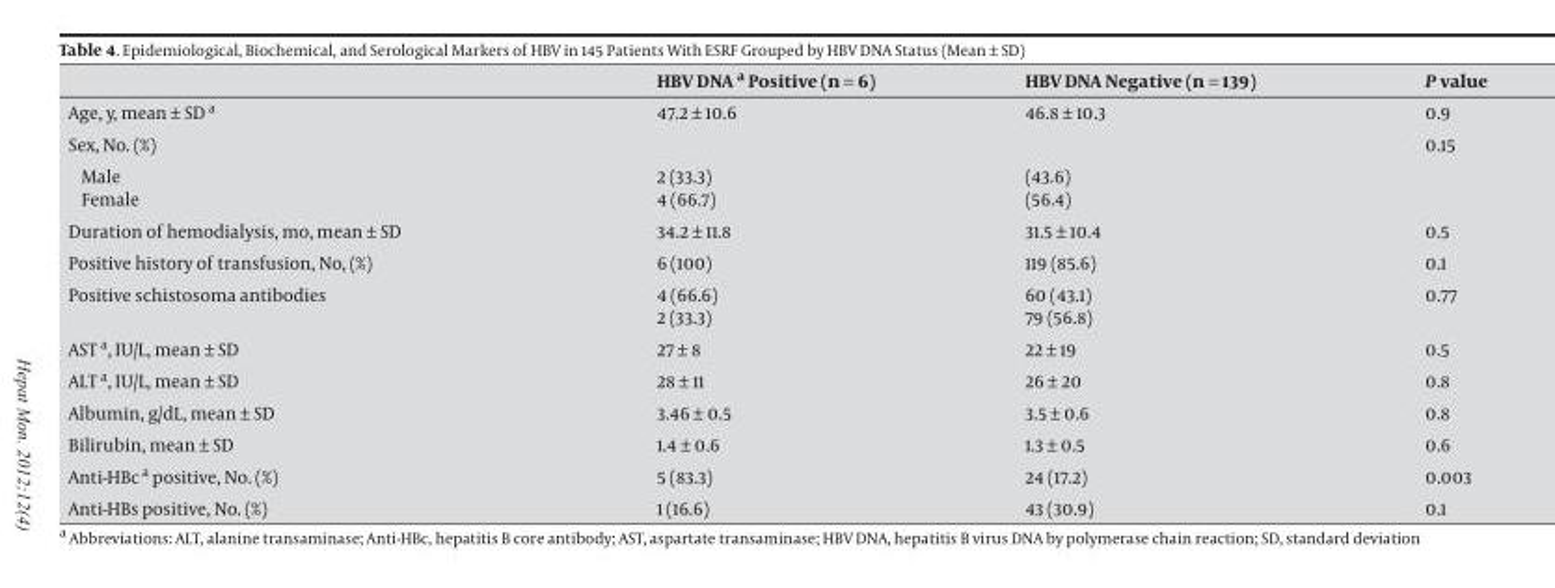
<table><thead><tr><td></td><td>HBV DNA a Positive (n = 6)</td><td>HBV DNA Negative (n = 139)</td><td>P value</td></tr></thead><tbody><tr><td>Age, y, mean ± SD a</td><td>47.2 ± 10.6</td><td>46.8 ± 10.3</td><td>0.9</td></tr><tr><td>Sex, No. (%)</td><td></td><td></td><td>0.15</td></tr><tr><td>Male</td><td>2 (33.3)</td><td>(43.6)</td><td></td></tr><tr><td>Female</td><td>4 (66.7)</td><td>(56.4)</td><td></td></tr><tr><td>Duration of hemodialysis, mo, mean ± SD</td><td>34.2 ± 11.8</td><td>31.5 ± 10.4</td><td>0.5</td></tr><tr><td>Positive history of transfusion, No, (%)</td><td>6 (100)</td><td>119 (85.6)</td><td>0.1</td></tr><tr><td rowspan="2">Positive schistosoma antibodies</td><td>4 (66.6)</td><td>60 (43.1)</td><td rowspan="2">0.77</td></tr><tr><td>2 (33.3)</td><td>79 (56.8)</td></tr><tr><td>AST a, IU/L, mean ± SD</td><td>27 ± 8</td><td>22 ± 19</td><td>0.5</td></tr><tr><td>ALT a, IU/L, mean ± SD</td><td>28 ± 11</td><td>26 ± 20</td><td>0.8</td></tr><tr><td>Albumin, g/dL, mean ± SD</td><td>3.46 ± 0.5</td><td>3.5 ± 0.6</td><td>0.8</td></tr><tr><td>Bilirubin, mean ± SD</td><td>1.4 ± 0.6</td><td>1.3 ± 0.5</td><td>0.6</td></tr><tr><td>Anti-HBc a positive, No. (%)</td><td>5 (83.3)</td><td>24 (17.2)</td><td>0.003</td></tr><tr><td>Anti-HBs positive, No. (%)</td><td>1 (16.6)</td><td>43 (30.9)</td><td>0.1</td></tr></tbody></table>